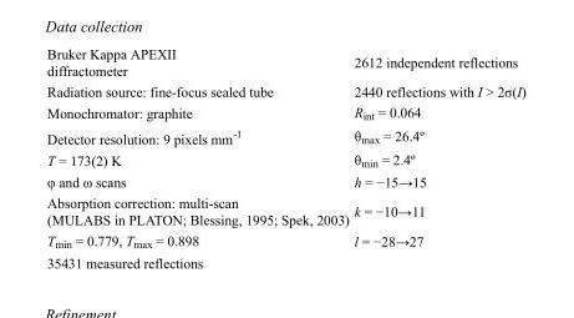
<table><tbody><tr><td>Bruker Kappa APEXII diffractometer</td><td>2612 independent reflections</td></tr><tr><td>Radiation source: fine-focus sealed tube</td><td>2440 reflections with I &gt; 2σ(I)</td></tr><tr><td>Monochromator: graphite</td><td>R<sub>int</sub> = 0.064</td></tr><tr><td>Detector resolution: 9 pixels mm<sup>-1</sup></td><td>θ<sub>max</sub> = 26.4º</td></tr><tr><td>T = 173(2) K</td><td>θ<sub>min</sub> = 2.4º</td></tr><tr><td>φ and ω scans</td><td>h = −15→15</td></tr><tr><td>Absorption correction: multi-scan (MULABS in PLATON; Blessing, 1995; Spek, 2003)</td><td>k = −10→11</td></tr><tr><td>T<sub>min</sub> = 0.779, T<sub>max</sub> = 0.898</td><td>l = −28→27</td></tr><tr><td>35431 measured reflections</td><td></td></tr></tbody></table>